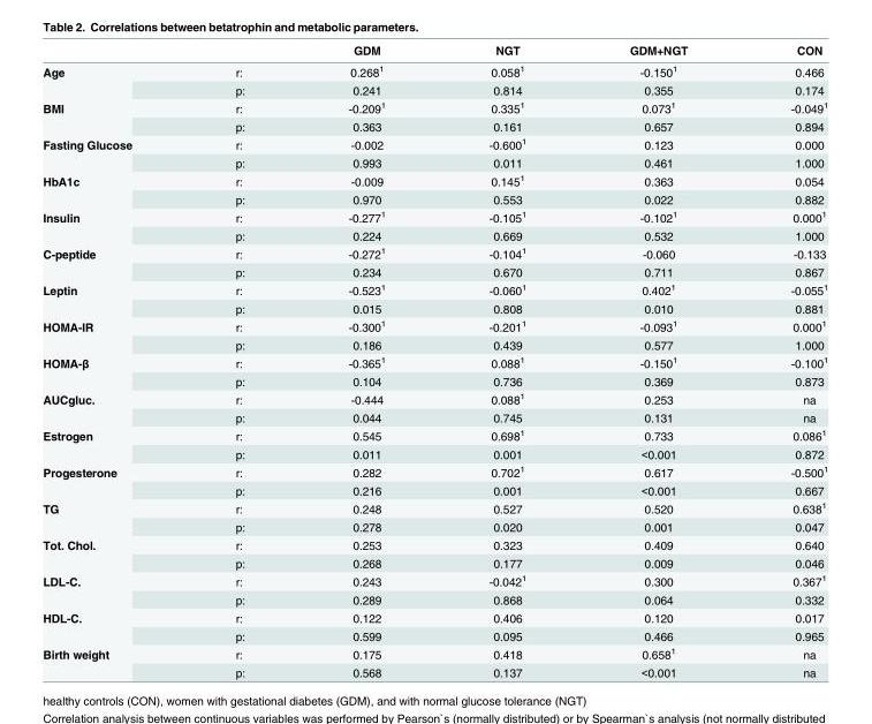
<table><thead><tr><td></td><td></td><td>GDM</td><td>NGT</td><td>GDM+NGT</td><td>CON</td></tr></thead><tbody><tr><td rowspan="2">Age</td><td>r:</td><td>0.268<sup>1</sup></td><td>0.058<sup>1</sup></td><td>-0.150<sup>1</sup></td><td>0.466</td></tr><tr><td>p:</td><td>0.241</td><td>0.814</td><td>0.355</td><td>0.174</td></tr><tr><td rowspan="2">BMI</td><td>r:</td><td>-0.209<sup>1</sup></td><td>0.335<sup>1</sup></td><td>0.073<sup>1</sup></td><td>-0.049<sup>1</sup></td></tr><tr><td>p:</td><td>0.363</td><td>0.161</td><td>0.657</td><td>0.894</td></tr><tr><td rowspan="2">Fasting Glucose</td><td>r:</td><td>-0.002</td><td>-0.600<sup>1</sup></td><td>0.123</td><td>0.000</td></tr><tr><td>p:</td><td>0.993</td><td>0.011</td><td>0.461</td><td>1.000</td></tr><tr><td rowspan="2">HbA1c</td><td>r:</td><td>-0.009</td><td>0.145<sup>1</sup></td><td>0.363</td><td>0.054</td></tr><tr><td>p:</td><td>0.970</td><td>0.553</td><td>0.022</td><td>0.882</td></tr><tr><td rowspan="2">Insulin</td><td>r:</td><td>-0.277<sup>1</sup></td><td>-0.105<sup>1</sup></td><td>-0.102<sup>1</sup></td><td>0.000<sup>1</sup></td></tr><tr><td>p:</td><td>0.224</td><td>0.669</td><td>0.532</td><td>1.000</td></tr><tr><td rowspan="2">C-peptide</td><td>r:</td><td>-0.272<sup>1</sup></td><td>-0.104<sup>1</sup></td><td>-0.060</td><td>-0.133</td></tr><tr><td>p:</td><td>0.234</td><td>0.670</td><td>0.711</td><td>0.867</td></tr><tr><td rowspan="2">Leptin</td><td>r:</td><td>-0.523<sup>1</sup></td><td>-0.060<sup>1</sup></td><td>0.402<sup>1</sup></td><td>-0.055<sup>1</sup></td></tr><tr><td>p:</td><td>0.015</td><td>0.808</td><td>0.010</td><td>0.881</td></tr><tr><td rowspan="2">HOMA-IR</td><td>r:</td><td>-0.300<sup>1</sup></td><td>-0.201<sup>1</sup></td><td>-0.093<sup>1</sup></td><td>0.000<sup>1</sup></td></tr><tr><td>p:</td><td>0.186</td><td>0.439</td><td>0.577</td><td>1.000</td></tr><tr><td rowspan="2">HOMA-β</td><td>r:</td><td>-0.365<sup>1</sup></td><td>0.088<sup>1</sup></td><td>-0.150<sup>1</sup></td><td>-0.100<sup>1</sup></td></tr><tr><td>p:</td><td>0.104</td><td>0.736</td><td>0.369</td><td>0.873</td></tr><tr><td rowspan="2">AUCgluc.</td><td>r:</td><td>-0.444</td><td>0.088<sup>1</sup></td><td>0.253</td><td>na</td></tr><tr><td>p:</td><td>0.044</td><td>0.745</td><td>0.131</td><td>na</td></tr><tr><td rowspan="2">Estrogen</td><td>r:</td><td>0.545</td><td>0.698<sup>1</sup></td><td>0.733</td><td>0.086<sup>1</sup></td></tr><tr><td>p:</td><td>0.011</td><td>0.001</td><td>&lt;0.001</td><td>0.872</td></tr><tr><td rowspan="2">Progesterone</td><td>r:</td><td>0.282</td><td>0.702<sup>1</sup></td><td>0.617</td><td>-0.500<sup>1</sup></td></tr><tr><td>p:</td><td>0.216</td><td>0.001</td><td>&lt;0.001</td><td>0.667</td></tr><tr><td rowspan="2">TG</td><td>r:</td><td>0.248</td><td>0.527</td><td>0.520</td><td>0.638<sup>1</sup></td></tr><tr><td>p:</td><td>0.278</td><td>0.020</td><td>0.001</td><td>0.047</td></tr><tr><td rowspan="2">Tot. Chol.</td><td>r:</td><td>0.253</td><td>0.323</td><td>0.409</td><td>0.640</td></tr><tr><td>p:</td><td>0.268</td><td>0.177</td><td>0.009</td><td>0.046</td></tr><tr><td rowspan="2">LDL-C.</td><td>r:</td><td>0.243</td><td>-0.042<sup>1</sup></td><td>0.300</td><td>0.367<sup>1</sup></td></tr><tr><td>p:</td><td>0.289</td><td>0.868</td><td>0.064</td><td>0.332</td></tr><tr><td rowspan="2">HDL-C.</td><td>r:</td><td>0.122</td><td>0.406</td><td>0.120</td><td>0.017</td></tr><tr><td>p:</td><td>0.599</td><td>0.095</td><td>0.466</td><td>0.965</td></tr><tr><td rowspan="2">Birth weight</td><td>r:</td><td>0.175</td><td>0.418</td><td>0.658<sup>1</sup></td><td>na</td></tr><tr><td>p:</td><td>0.568</td><td>0.137</td><td>&lt;0.001</td><td>na</td></tr></tbody></table>